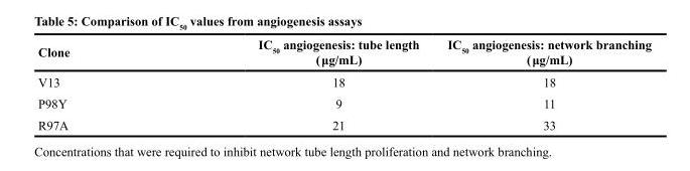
<table><thead><tr><td>Clone</td><td>IC<sub>50</sub> angiogenesis: tube length (μg/mL)</td><td>IC<sub>50</sub> angiogenesis: network branching (μg/mL)</td></tr></thead><tbody><tr><td>V13</td><td>18</td><td>18</td></tr><tr><td>P98Y</td><td>9</td><td>11</td></tr><tr><td>R97A</td><td>21</td><td>33</td></tr></tbody></table>